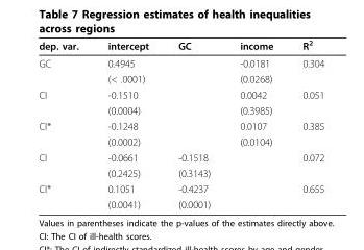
<table><thead><tr><td>dep. var.</td><td>intercept</td><td>GC</td><td>income</td><td>R<sup>2</sup></td></tr></thead><tbody><tr><td rowspan="2">GC</td><td>0.4945</td><td></td><td>-0.0181</td><td>0.304</td></tr><tr><td>(&lt; .0001)</td><td></td><td>(0.0268)</td><td></td></tr><tr><td rowspan="2">CI</td><td>-0.1510</td><td></td><td>0.0042</td><td>0.051</td></tr><tr><td>(0.0004)</td><td></td><td>(0.3985)</td><td></td></tr><tr><td rowspan="2">CI*</td><td>-0.1248</td><td></td><td>0.0107</td><td>0.385</td></tr><tr><td>(0.0002)</td><td></td><td>(0.0104)</td><td></td></tr><tr><td rowspan="2">CI</td><td>-0.0661</td><td>-0.1518</td><td></td><td>0.072</td></tr><tr><td>(0.2425)</td><td>(0.3143)</td><td></td><td></td></tr><tr><td rowspan="2">CI*</td><td>0.1051</td><td>-0.4237</td><td></td><td>0.655</td></tr><tr><td>(0.0041)</td><td>(0.0001)</td><td></td><td></td></tr></tbody></table>